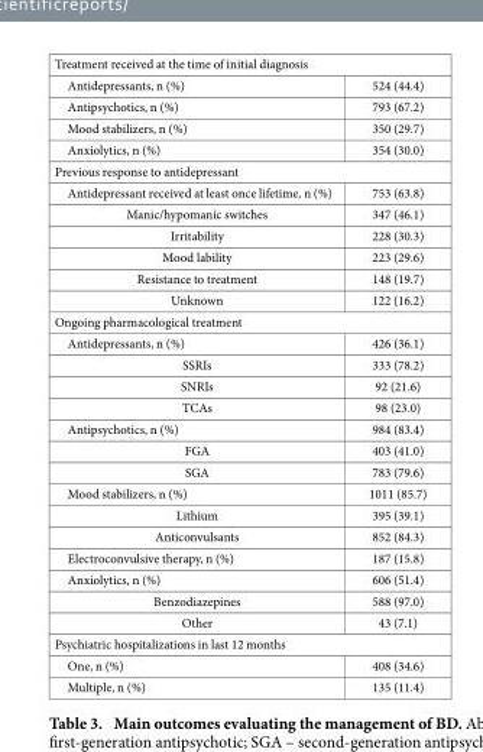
<table><tbody><tr><td colspan="2">Treatment received at the time of initial diagnosis</td></tr><tr><td>Antidepressants, n (%)</td><td>524 (44.4)</td></tr><tr><td>Antipsychotics, n (%)</td><td>793 (67.2)</td></tr><tr><td>Mood stabilizers, n (%)</td><td>350 (29.7)</td></tr><tr><td>Anxiolytics, n (%)</td><td>354 (30.0)</td></tr><tr><td colspan="2">Previous response to antidepressant</td></tr><tr><td>Antidepressant received at least once lifetime, n (%)</td><td>753 (63.8)</td></tr><tr><td>Manic/hypomanic switches</td><td>347 (46.1)</td></tr><tr><td>Irritability</td><td>228 (30.3)</td></tr><tr><td>Mood lability</td><td>223 (29.6)</td></tr><tr><td>Resistance to treatment</td><td>148 (19.7)</td></tr><tr><td>Unknown</td><td>122 (16.2)</td></tr><tr><td colspan="2">Ongoing pharmacological treatment</td></tr><tr><td>Antidepressants, n (%)</td><td>426 (36.1)</td></tr><tr><td>SSRIs</td><td>333 (78.2)</td></tr><tr><td>SNRIs</td><td>92 (21.6)</td></tr><tr><td>TCAs</td><td>98 (23.0)</td></tr><tr><td>Antipsychotics, n (%)</td><td>984 (83.4)</td></tr><tr><td>FGA</td><td>403 (41.0)</td></tr><tr><td>SGA</td><td>783 (79.6)</td></tr><tr><td>Mood stabilizers, n (%)</td><td>1011 (85.7)</td></tr><tr><td>Lithium</td><td>395 (39.1)</td></tr><tr><td>Anticonvulsants</td><td>852 (84.3)</td></tr><tr><td>Electroconvulsive therapy, n (%)</td><td>187 (15.8)</td></tr><tr><td>Anxiolytics, n (%)</td><td>606 (51.4)</td></tr><tr><td>Benzodiazepines</td><td>588 (97.0)</td></tr><tr><td>Other</td><td>43 (7.1)</td></tr><tr><td colspan="2">Psychiatric hospitalizations in last 12 months</td></tr><tr><td>One, n (%)</td><td>408 (34.6)</td></tr><tr><td>Multiple, n (%)</td><td>135 (11.4)</td></tr></tbody></table>